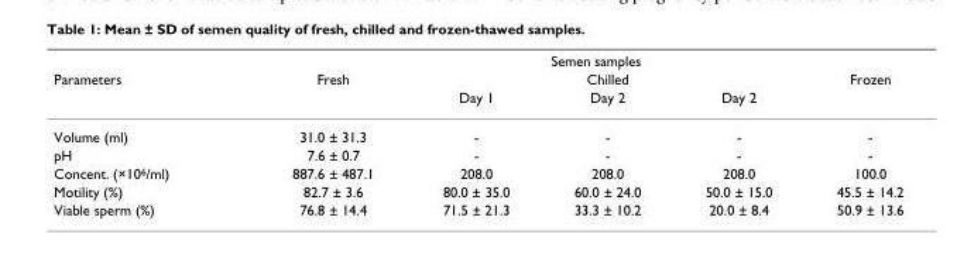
<table><thead><tr><td rowspan="3">Parameters</td><td colspan="5">Semen samples</td></tr><tr><td rowspan="2">Fresh</td><td colspan="3">Chilled</td><td rowspan="2">Frozen</td></tr><tr><td>Day 1</td><td>Day 2</td><td>Day 2</td></tr></thead><tbody><tr><td>Volume (ml)</td><td>31.0 ± 31.3</td><td>-</td><td>-</td><td>-</td><td>-</td></tr><tr><td>pH</td><td>7.6 ± 0.7</td><td>-</td><td>-</td><td>-</td><td>-</td></tr><tr><td>Concent. (×10<sup>6</sup>/ml)</td><td>887.6 ± 487.1</td><td>208.0</td><td>208.0</td><td>208.0</td><td>100.0</td></tr><tr><td>Motility (%)</td><td>82.7 ± 3.6</td><td>80.0 ± 35.0</td><td>60.0 ± 24.0</td><td>50.0 ± 15.0</td><td>45.5 ± 14.2</td></tr><tr><td>Viable sperm (%)</td><td>76.8 ± 14.4</td><td>71.5 ± 21.3</td><td>33.3 ± 10.2</td><td>20.0 ± 8.4</td><td>50.9 ± 13.6</td></tr></tbody></table>